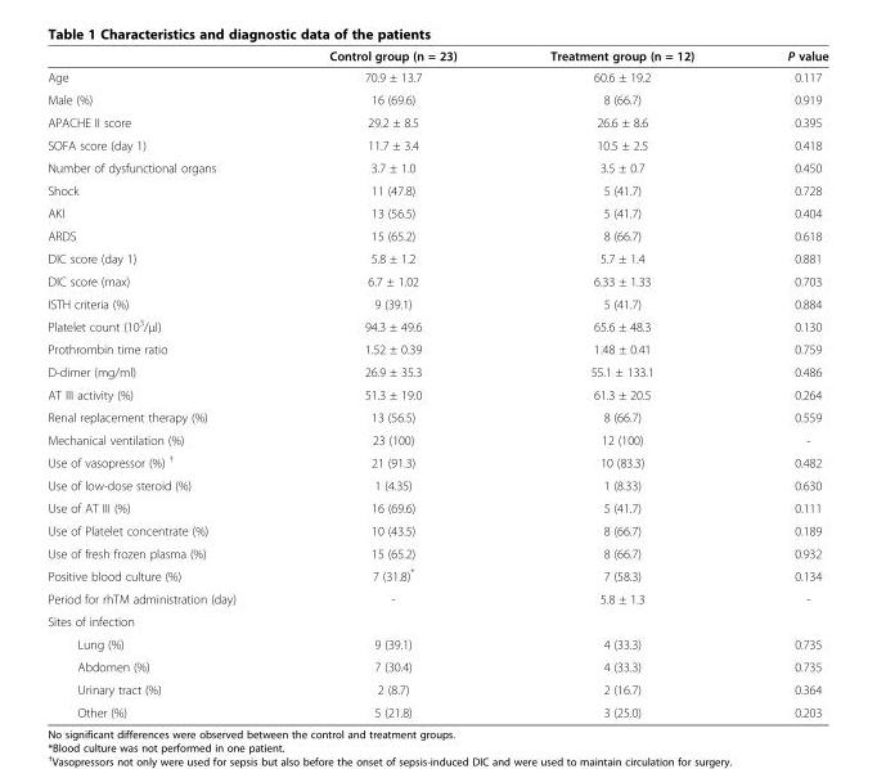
<table><thead><tr><td></td><td>Control group (n = 23)</td><td>Treatment group (n = 12)</td><td>P value</td></tr></thead><tbody><tr><td>Age</td><td>70.9 ± 13.7</td><td>60.6 ± 19.2</td><td>0.117</td></tr><tr><td>Male (%)</td><td>16 (69.6)</td><td>8 (66.7)</td><td>0.919</td></tr><tr><td>APACHE II score</td><td>29.2 ± 8.5</td><td>26.6 ± 8.6</td><td>0.395</td></tr><tr><td>SOFA score (day 1)</td><td>11.7 ± 3.4</td><td>10.5 ± 2.5</td><td>0.418</td></tr><tr><td>Number of dysfunctional organs</td><td>3.7 ± 1.0</td><td>3.5 ± 0.7</td><td>0.450</td></tr><tr><td>Shock</td><td>11 (47.8)</td><td>5 (41.7)</td><td>0.728</td></tr><tr><td>AKI</td><td>13 (56.5)</td><td>5 (41.7)</td><td>0.404</td></tr><tr><td>ARDS</td><td>15 (65.2)</td><td>8 (66.7)</td><td>0.618</td></tr><tr><td>DIC score (day 1)</td><td>5.8 ± 1.2</td><td>5.7 ± 1.4</td><td>0.881</td></tr><tr><td>DIC score (max)</td><td>6.7 ± 1.02</td><td>6.33 ± 1.33</td><td>0.703</td></tr><tr><td>ISTH criteria (%)</td><td>9 (39.1)</td><td>5 (41.7)</td><td>0.884</td></tr><tr><td>Platelet count (10<sup>3</sup>/μl)</td><td>94.3 ± 49.6</td><td>65.6 ± 48.3</td><td>0.130</td></tr><tr><td>Prothrombin time ratio</td><td>1.52 ± 0.39</td><td>1.48 ± 0.41</td><td>0.759</td></tr><tr><td>D-dimer (mg/ml)</td><td>26.9 ± 35.3</td><td>55.1 ± 133.1</td><td>0.486</td></tr><tr><td>AT III activity (%)</td><td>51.3 ± 19.0</td><td>61.3 ± 20.5</td><td>0.264</td></tr><tr><td>Renal replacement therapy (%)</td><td>13 (56.5)</td><td>8 (66.7)</td><td>0.559</td></tr><tr><td>Mechanical ventilation (%)</td><td>23 (100)</td><td>12 (100)</td><td>-</td></tr><tr><td>Use of vasopressor (%) <sup>†</sup></td><td>21 (91.3)</td><td>10 (83.3)</td><td>0.482</td></tr><tr><td>Use of low-dose steroid (%)</td><td>1 (4.35)</td><td>1 (8.33)</td><td>0.630</td></tr><tr><td>Use of AT III (%)</td><td>16 (69.6)</td><td>5 (41.7)</td><td>0.111</td></tr><tr><td>Use of Platelet concentrate (%)</td><td>10 (43.5)</td><td>8 (66.7)</td><td>0.189</td></tr><tr><td>Use of fresh frozen plasma (%)</td><td>15 (65.2)</td><td>8 (66.7)</td><td>0.932</td></tr><tr><td>Positive blood culture (%)</td><td>7 (31.8)*</td><td>7 (58.3)</td><td>0.134</td></tr><tr><td>Period for rhTM administration (day)</td><td>-</td><td>5.8 ± 1.3</td><td>-</td></tr><tr><td colspan="4">Sites of infection</td></tr><tr><td>Lung (%)</td><td>9 (39.1)</td><td>4 (33.3)</td><td>0.735</td></tr><tr><td>Abdomen (%)</td><td>7 (30.4)</td><td>4 (33.3)</td><td>0.735</td></tr><tr><td>Urinary tract (%)</td><td>2 (8.7)</td><td>2 (16.7)</td><td>0.364</td></tr><tr><td>Other (%)</td><td>5 (21.8)</td><td>3 (25.0)</td><td>0.203</td></tr></tbody></table>